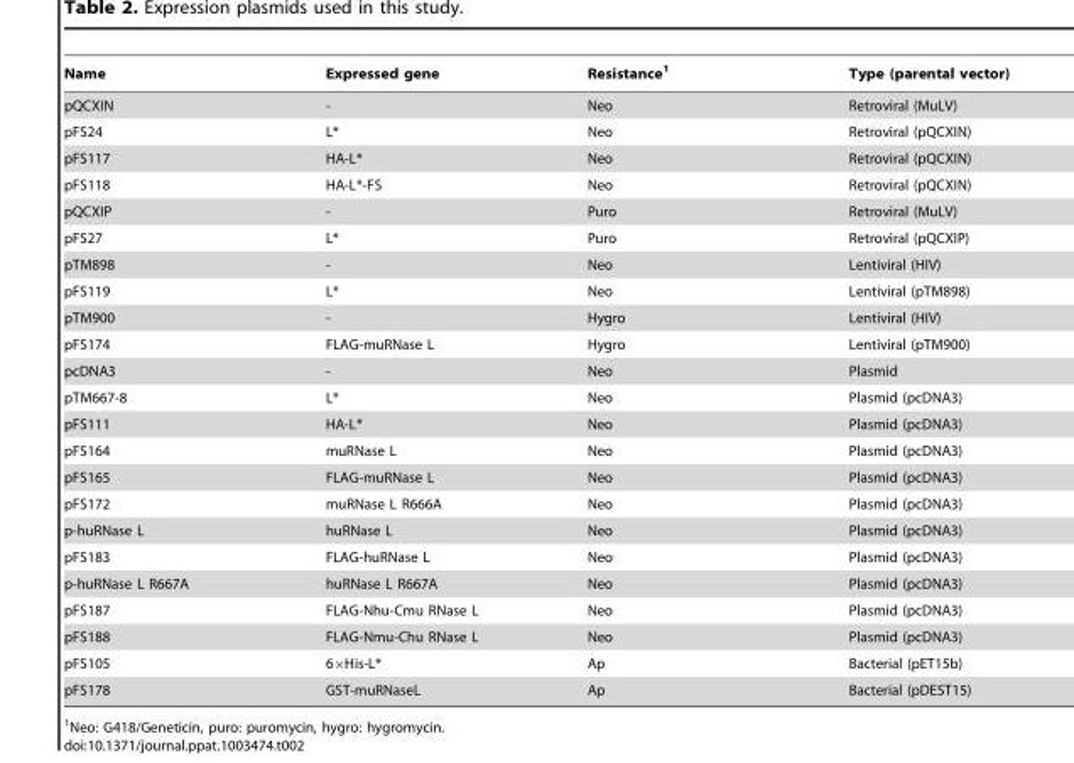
<table><thead><tr><td>Name</td><td>Expressed gene</td><td>Resistance<sup>1</sup></td><td>Type (parental vector)</td></tr></thead><tbody><tr><td>pQCXIN</td><td>-</td><td>Neo</td><td>Retroviral (MuLV)</td></tr><tr><td>pFS24</td><td>L*</td><td>Neo</td><td>Retroviral (pQCXIN)</td></tr><tr><td>pFS117</td><td>HA-L*</td><td>Neo</td><td>Retroviral (pQCXIN)</td></tr><tr><td>pFS118</td><td>HA-L*-FS</td><td>Neo</td><td>Retroviral (pQCXIN)</td></tr><tr><td>pQCXIP</td><td>-</td><td>Puro</td><td>Retroviral (MuLV)</td></tr><tr><td>pFS27</td><td>L*</td><td>Puro</td><td>Retroviral (pQCXIP)</td></tr><tr><td>pTM898</td><td>-</td><td>Neo</td><td>Lentiviral (HIV)</td></tr><tr><td>pFS119</td><td>L*</td><td>Neo</td><td>Lentiviral (pTM898)</td></tr><tr><td>pTM900</td><td>-</td><td>Hygro</td><td>Lentiviral (HIV)</td></tr><tr><td>pFS174</td><td>FLAG-muRNase L</td><td>Hygro</td><td>Lentiviral (pTM900)</td></tr><tr><td>pcDNA3</td><td>-</td><td>Neo</td><td>Plasmid</td></tr><tr><td>pTM667-8</td><td>L*</td><td>Neo</td><td>Plasmid (pcDNA3)</td></tr><tr><td>pFS111</td><td>HA-L*</td><td>Neo</td><td>Plasmid (pcDNA3)</td></tr><tr><td>pFS164</td><td>muRNase L</td><td>Neo</td><td>Plasmid (pcDNA3)</td></tr><tr><td>pFS165</td><td>FLAG-muRNase L</td><td>Neo</td><td>Plasmid (pcDNA3)</td></tr><tr><td>pFS172</td><td>muRNase L R666A</td><td>Neo</td><td>Plasmid (pcDNA3)</td></tr><tr><td>p-huRNase L</td><td>huRNase L</td><td>Neo</td><td>Plasmid (pcDNA3)</td></tr><tr><td>pFS183</td><td>FLAG-huRNase L</td><td>Neo</td><td>Plasmid (pcDNA3)</td></tr><tr><td>p-huRNase L R667A</td><td>huRNase L R667A</td><td>Neo</td><td>Plasmid (pcDNA3)</td></tr><tr><td>pFS187</td><td>FLAG-Nhu-Cmu RNase L</td><td>Neo</td><td>Plasmid (pcDNA3)</td></tr><tr><td>pFS188</td><td>FLAG-Nmu-Chu RNase L</td><td>Neo</td><td>Plasmid (pcDNA3)</td></tr><tr><td>pFS105</td><td>6×His-L*</td><td>Ap</td><td>Bacterial (pET15b)</td></tr><tr><td>pFS178</td><td>GST-muRNaseL</td><td>Ap</td><td>Bacterial (pDEST15)</td></tr></tbody></table>